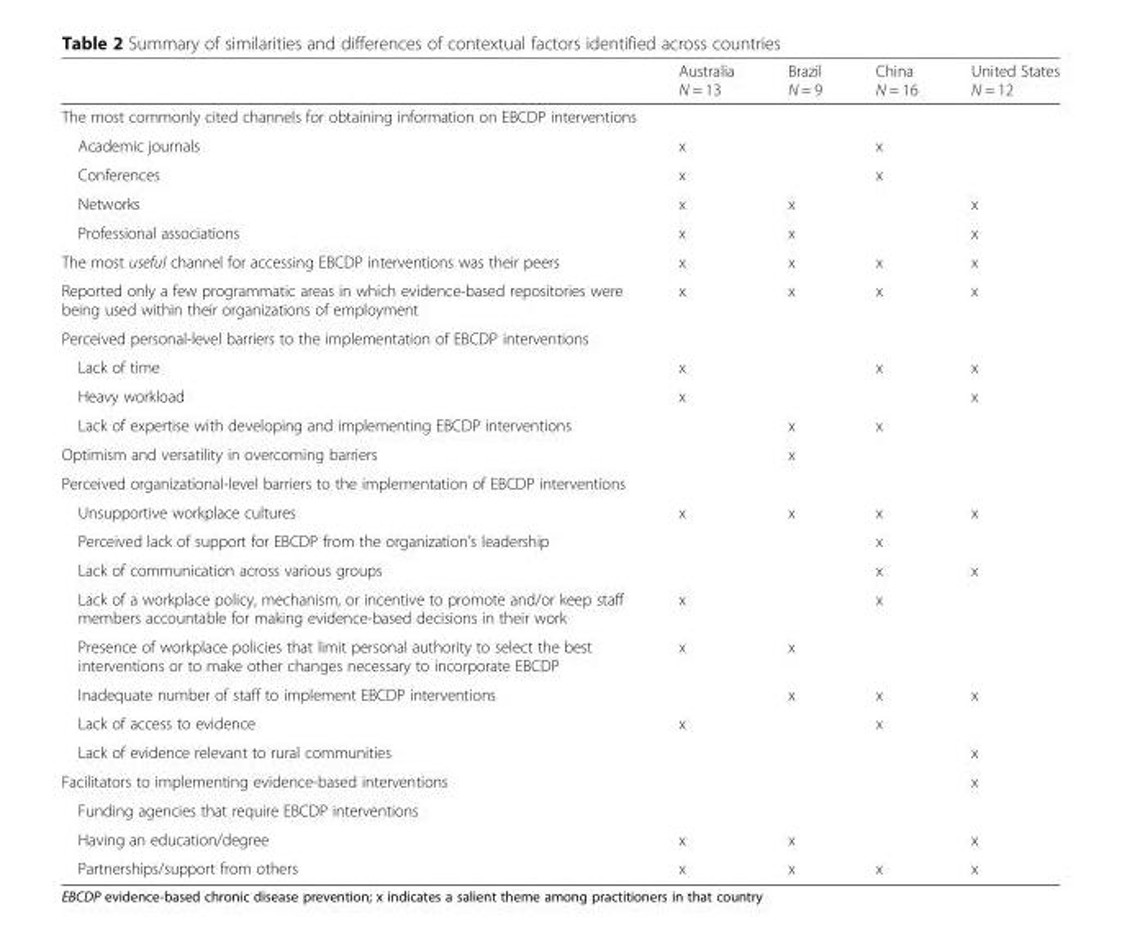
<table><thead><tr><td></td><td>Australia N = 13</td><td>Brazil N = 9</td><td>China N = 16</td><td>United States N = 12</td></tr></thead><tbody><tr><td colspan="5">The most commonly cited channels for obtaining information on EBCDP interventions</td></tr><tr><td>Academic journals</td><td>x</td><td></td><td>x</td><td></td></tr><tr><td>Conferences</td><td>x</td><td></td><td>x</td><td></td></tr><tr><td>Networks</td><td>x</td><td>x</td><td></td><td>x</td></tr><tr><td>Professional associations</td><td>x</td><td>x</td><td></td><td>x</td></tr><tr><td>The most useful channel for accessing EBCDP interventions was their peers</td><td>x</td><td>x</td><td>x</td><td>x</td></tr><tr><td>Reported only a few programmatic areas in which evidence-based repositories were being used within their organizations of employment</td><td>x</td><td>x</td><td>x</td><td>x</td></tr><tr><td colspan="5">Perceived personal-level barriers to the implementation of EBCDP interventions</td></tr><tr><td>Lack of time</td><td>x</td><td></td><td>x</td><td>x</td></tr><tr><td>Heavy workload</td><td>x</td><td></td><td></td><td>x</td></tr><tr><td>Lack of expertise with developing and implementing EBCDP interventions</td><td></td><td>x</td><td>x</td><td></td></tr><tr><td>Optimism and versatility in overcoming barriers</td><td></td><td>x</td><td></td><td></td></tr><tr><td colspan="5">Perceived organizational-level barriers to the implementation of EBCDP interventions</td></tr><tr><td>Unsupportive workplace cultures</td><td>x</td><td>x</td><td>x</td><td>x</td></tr><tr><td>Perceived lack of support for EBCDP from the organization’s leadership</td><td></td><td></td><td>x</td><td></td></tr><tr><td>Lack of communication across various groups</td><td></td><td></td><td>x</td><td>x</td></tr><tr><td>Lack of a workplace policy, mechanism, or incentive to promote and/or keep staff members accountable for making evidence-based decisions in their work</td><td>x</td><td></td><td>x</td><td></td></tr><tr><td>Presence of workplace policies that limit personal authority to select the best interventions or to make other changes necessary to incorporate EBCDP</td><td>x</td><td>x</td><td></td><td></td></tr><tr><td>Inadequate number of staff to implement EBCDP interventions</td><td></td><td>x</td><td>x</td><td>x</td></tr><tr><td>Lack of access to evidence</td><td>x</td><td></td><td>x</td><td></td></tr><tr><td>Lack of evidence relevant to rural communities</td><td></td><td></td><td></td><td>x</td></tr><tr><td>Facilitators to implementing evidence-based interventions</td><td></td><td></td><td></td><td>x</td></tr><tr><td colspan="5">Funding agencies that require EBCDP interventions</td></tr><tr><td>Having an education/degree</td><td>x</td><td>x</td><td></td><td>x</td></tr><tr><td>Partnerships/support from others</td><td>x</td><td>x</td><td>x</td><td>x</td></tr></tbody></table>